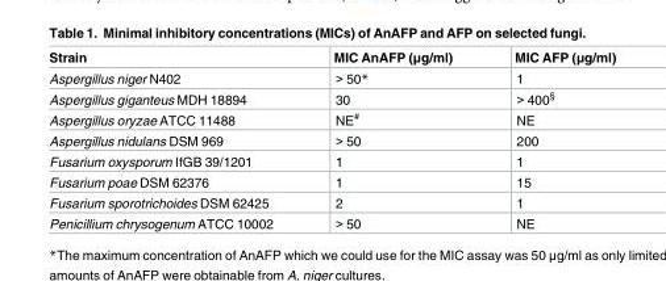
<table><thead><tr><td>Strain</td><td>MIC AnAFP (μg/ml)</td><td>MIC AFP (μg/ml)</td></tr></thead><tbody><tr><td>Aspergillus niger N402</td><td>&gt; 50*</td><td>1</td></tr><tr><td>Aspergillus giganteus MDH 18894</td><td>30</td><td>&gt; 400<sup>§</sup></td></tr><tr><td>Aspergillus oryzae ATCC 11488</td><td>NE<sup>#</sup></td><td>NE</td></tr><tr><td>Aspergillus nidulans DSM 969</td><td>&gt; 50</td><td>200</td></tr><tr><td>Fusarium oxysporum IfGB 39/1201</td><td>1</td><td>1</td></tr><tr><td>Fusarium poae DSM 62376</td><td>1</td><td>15</td></tr><tr><td>Fusarium sporotrichoides DSM 62425</td><td>2</td><td>1</td></tr><tr><td>Penicillium chrysogenum ATCC 10002</td><td>&gt; 50</td><td>NE</td></tr></tbody></table>